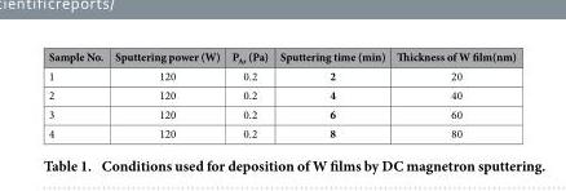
<table><thead><tr><td>Sample No.</td><td>Sputtering power (W)</td><td>P<sub>Ar</sub> (Pa)</td><td>Sputtering time (min)</td><td>Thickness of W film(nm)</td></tr></thead><tbody><tr><td>1</td><td>120</td><td>0.2</td><td>2</td><td>20</td></tr><tr><td>2</td><td>120</td><td>0.2</td><td>4</td><td>40</td></tr><tr><td>3</td><td>120</td><td>0.2</td><td>6</td><td>60</td></tr><tr><td>4</td><td>120</td><td>0.2</td><td>8</td><td>80</td></tr></tbody></table>